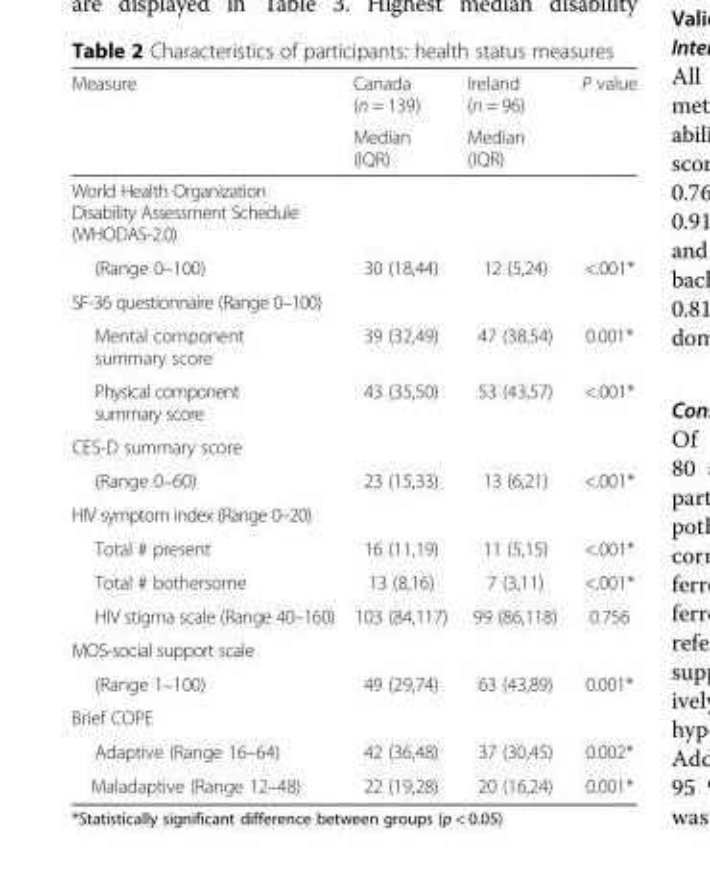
<table><thead><tr><td rowspan="2">Measure</td><td rowspan="2">Canada (n = 139) Median (IQR)</td><td rowspan="2">Ireland (n = 96) Median (IQR)</td><td rowspan="2">P value</td></tr><tr></tr></thead><tbody><tr><td colspan="4">World Health Organization Disability Assessment Schedule (WHODAS-2.0)</td></tr><tr><td>(Range 0–100)</td><td>30 (18,44)</td><td>12 (5,24)</td><td>&lt;.001*</td></tr><tr><td colspan="4">SF-36 questionnaire (Range 0–100)</td></tr><tr><td>Mental component summary score</td><td>39 (32,49)</td><td>47 (38,54)</td><td>0.001*</td></tr><tr><td>Physical component summary score</td><td>43 (35,50)</td><td>53 (43,57)</td><td>&lt;.001*</td></tr><tr><td colspan="4">CES-D summary score</td></tr><tr><td>(Range 0–60)</td><td>23 (15,33)</td><td>13 (6,21)</td><td>&lt;.001*</td></tr><tr><td colspan="4">HIV symptom index (Range 0–20)</td></tr><tr><td>Total # present</td><td>16 (11,19)</td><td>11 (5,15)</td><td>&lt;.001*</td></tr><tr><td>Total # bothersome</td><td>13 (8,16)</td><td>7 (3,11)</td><td>&lt;.001*</td></tr><tr><td>HIV stigma scale (Range 40–160)</td><td>103 (84,117)</td><td>99 (86,118)</td><td>0.756</td></tr><tr><td colspan="4">MOS-social support scale</td></tr><tr><td>(Range 1–100)</td><td>49 (29,74)</td><td>63 (43,89)</td><td>0.001*</td></tr><tr><td colspan="4">Brief COPE</td></tr><tr><td>Adaptive (Range 16–64)</td><td>42 (36,48)</td><td>37 (30,45)</td><td>0.002*</td></tr><tr><td>Maladaptive (Range 12–48)</td><td>22 (19,28)</td><td>20 (16,24)</td><td>0.001*</td></tr></tbody></table>